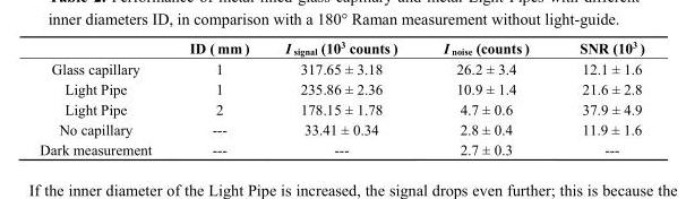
<table><thead><tr><td></td><td>ID ( mm )</td><td>I <sub>signal</sub> (10<sup>3</sup> counts )</td><td>I <sub>noise</sub> (counts )</td><td>SNR (10<sup>3</sup> )</td></tr></thead><tbody><tr><td>Glass capillary</td><td>1</td><td>317.65 ± 3.18</td><td>26.2 ± 3.4</td><td>12.1 ± 1.6</td></tr><tr><td>Light Pipe</td><td>1</td><td>235.86 ± 2.36</td><td>10.9 ± 1.4</td><td>21.6 ± 2.8</td></tr><tr><td>Light Pipe</td><td>2</td><td>178.15 ± 1.78</td><td>4.7 ± 0.6</td><td>37.9 ± 4.9</td></tr><tr><td>No capillary</td><td>---</td><td>33.41 ± 0.34</td><td>2.8 ± 0.4</td><td>11.9 ± 1.6</td></tr><tr><td>Dark measurement</td><td>---</td><td>---</td><td>2.7 ± 0.3</td><td>---</td></tr></tbody></table>